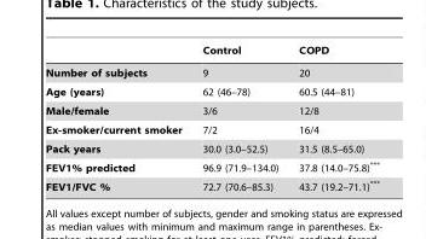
<table><thead><tr><td></td><td>Control</td><td>COPD</td></tr></thead><tbody><tr><td>Number of subjects</td><td>9</td><td>20</td></tr><tr><td>Age (years)</td><td>62 (46–78)</td><td>60.5 (44–81)</td></tr><tr><td>Male/female</td><td>3/6</td><td>12/8</td></tr><tr><td>Ex-smoker/current smoker</td><td>7/2</td><td>16/4</td></tr><tr><td>Pack years</td><td>30.0 (3.0–52.5)</td><td>31.5 (8.5–65.0)</td></tr><tr><td>FEV1% predicted</td><td>96.9 (71.9–134.0)</td><td>37.8 (14.0–75.8)***</td></tr><tr><td>FEV1/FVC %</td><td>72.7 (70.6–85.3)</td><td>43.7 (19.2–71.1)***</td></tr></tbody></table>